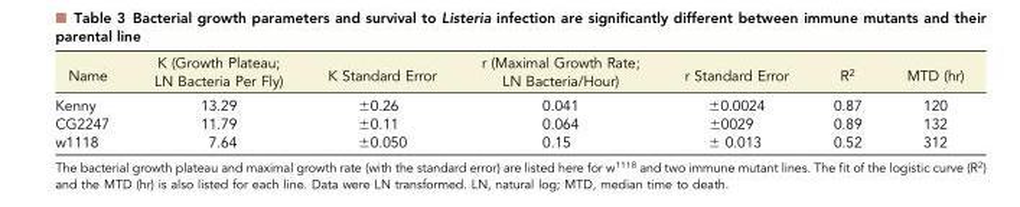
<table><thead><tr><td>Name</td><td>K (Growth Plateau; LN Bacteria Per Fly)</td><td>K Standard Error</td><td>r (Maximal Growth Rate; LN Bacteria/Hour)</td><td>r Standard Error</td><td>R<sup>2</sup></td><td>MTD (hr)</td></tr></thead><tbody><tr><td>Kenny</td><td>13.29</td><td>±0.26</td><td>0.041</td><td>±0.0024</td><td>0.87</td><td>120</td></tr><tr><td>CG2247</td><td>11.79</td><td>±0.11</td><td>0.064</td><td>±0029</td><td>0.89</td><td>132</td></tr><tr><td>w1118</td><td>7.64</td><td>±0.050</td><td>0.15</td><td>± 0.013</td><td>0.52</td><td>312</td></tr></tbody></table>